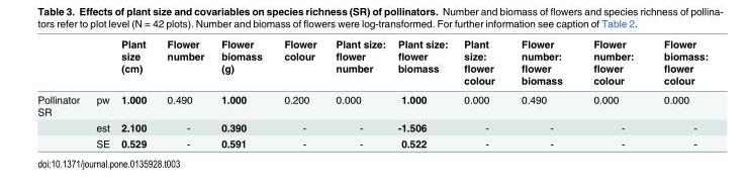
<table><thead><tr><td></td><td></td><td>Plant size (cm)</td><td>Flower number</td><td>Flower biomass (g)</td><td>Flower colour</td><td>Plant size: flower number</td><td>Plant size: flower biomass</td><td>Plant size: flower colour</td><td>Flower number: flower biomass</td><td>Flower number: flower colour</td><td>Flower biomass: flower colour</td></tr></thead><tbody><tr><td rowspan="3">Pollinator SR</td><td>pw</td><td>1.000</td><td>0.490</td><td>1.000</td><td>0.200</td><td>0.000</td><td>1.000</td><td>0.000</td><td>0.490</td><td>0.000</td><td>0.000</td></tr><tr><td>est</td><td>2.100</td><td>-</td><td>0.390</td><td>-</td><td>-</td><td>-1.506</td><td>-</td><td>-</td><td>-</td><td>-</td></tr><tr><td>SE</td><td>0.529</td><td>-</td><td>0.591</td><td>-</td><td>-</td><td>0.522</td><td>-</td><td>-</td><td>-</td><td>-</td></tr></tbody></table>